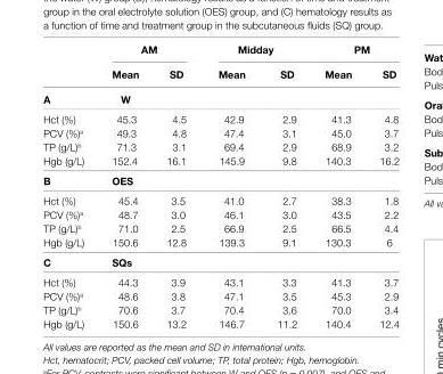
<table><thead><tr><td rowspan="2"></td><td colspan="2">aM</td><td colspan="2">Midday</td><td colspan="2">PM</td></tr><tr><td>Mean</td><td>sD</td><td>Mean</td><td>sD</td><td>Mean</td><td>sD</td></tr></thead><tbody><tr><td>a</td><td>W</td><td></td><td></td><td></td><td></td><td></td></tr><tr><td>Hct (%)</td><td>45.3</td><td>4.5</td><td>42.9</td><td>2.9</td><td>41.3</td><td>4.8</td></tr><tr><td>PCV (%)<sup>a</sup></td><td>49.3</td><td>4.8</td><td>47.4</td><td>3.1</td><td>45.0</td><td>3.7</td></tr><tr><td>TP (g/L)<sup>b</sup></td><td>71.3</td><td>3.1</td><td>69.4</td><td>2.9</td><td>68.9</td><td>3.2</td></tr><tr><td>Hgb (g/L)</td><td>152.4</td><td>16.1</td><td>145.9</td><td>9.8</td><td>140.3</td><td>16.2</td></tr><tr><td>b</td><td colspan="6">Oes</td></tr><tr><td>Hct (%)</td><td>45.4</td><td>3.5</td><td>41.0</td><td>2.7</td><td>38.3</td><td>1.8</td></tr><tr><td>PCV (%)<sup>a</sup></td><td>48.7</td><td>3.0</td><td>46.1</td><td>3.0</td><td>43.5</td><td>2.2</td></tr><tr><td>TP (g/L)<sup>b</sup></td><td>71.0</td><td>2.5</td><td>66.9</td><td>2.5</td><td>66.5</td><td>4.4</td></tr><tr><td>Hgb (g/L)</td><td>150.6</td><td>12.8</td><td>139.3</td><td>9.1</td><td>130.3</td><td>6</td></tr><tr><td>c</td><td colspan="6">sQs</td></tr><tr><td>Hct (%)</td><td>44.3</td><td>3.9</td><td>43.1</td><td>3.3</td><td>41.3</td><td>3.7</td></tr><tr><td>PCV (%)<sup>a</sup></td><td>48.6</td><td>3.8</td><td>47.1</td><td>3.5</td><td>45.3</td><td>2.9</td></tr><tr><td>TP (g/L)<sup>b</sup></td><td>70.6</td><td>3.7</td><td>70.4</td><td>3.6</td><td>70.0</td><td>3.4</td></tr><tr><td>Hgb (g/L)</td><td>150.6</td><td>13.2</td><td>146.7</td><td>11.2</td><td>140.4</td><td>12.4</td></tr></tbody></table>